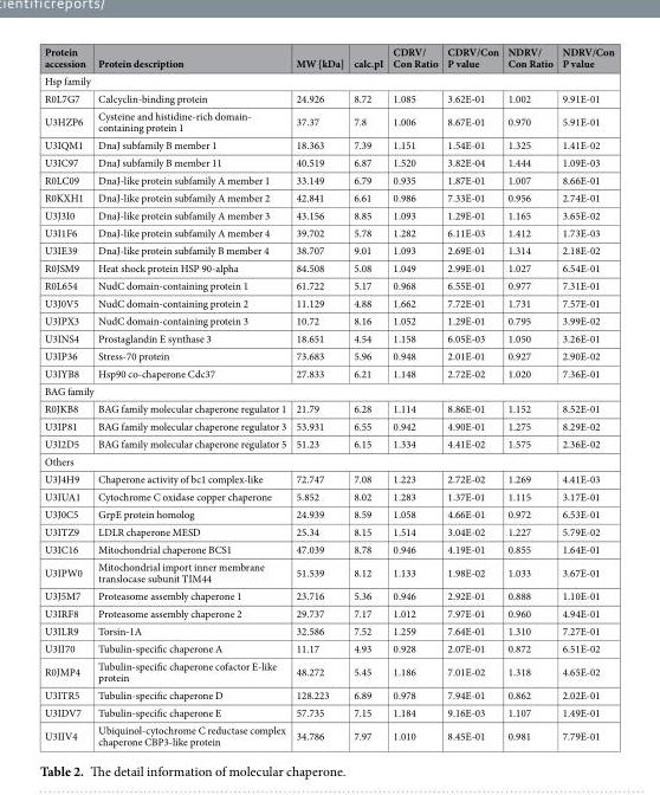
<table><thead><tr><td>Protein accession</td><td>Protein description</td><td>MW [kDa]</td><td>calc.pI</td><td>CDRV/ Con Ratio</td><td>CDRV/Con P value</td><td>NDRV/ Con Ratio</td><td>NDRV/Con P value</td></tr></thead><tbody><tr><td colspan="8">Hsp family</td></tr><tr><td>R0L7G7</td><td>Calcyclin-binding protein</td><td>24.926</td><td>8.72</td><td>1.085</td><td>3.62E-01</td><td>1.002</td><td>9.91E-01</td></tr><tr><td>U3HZP6</td><td>Cysteine and histidine-rich domain- containing protein 1</td><td>37.37</td><td>7.8</td><td>1.006</td><td>8.67E-01</td><td>0.970</td><td>5.91E-01</td></tr><tr><td>U3IQM1</td><td>DnaJ subfamily B member 1</td><td>18.363</td><td>7.39</td><td>1.151</td><td>1.54E-01</td><td>1.325</td><td>1.41E-02</td></tr><tr><td>U3IC97</td><td>DnaJ subfamily B member 11</td><td>40.519</td><td>6.87</td><td>1.520</td><td>3.82E-04</td><td>1.444</td><td>1.09E-03</td></tr><tr><td>R0LC09</td><td>DnaJ-like protein subfamily A member 1</td><td>33.149</td><td>6.79</td><td>0.935</td><td>1.87E-01</td><td>1.007</td><td>8.66E-01</td></tr><tr><td>R0KXH1</td><td>DnaJ-like protein subfamily A member 2</td><td>42.841</td><td>6.61</td><td>0.986</td><td>7.33E-01</td><td>0.956</td><td>2.74E-01</td></tr><tr><td>U3J3I0</td><td>DnaJ-like protein subfamily A member 3</td><td>43.156</td><td>8.85</td><td>1.093</td><td>1.29E-01</td><td>1.165</td><td>3.65E-02</td></tr><tr><td>U3I1F6</td><td>DnaJ-like protein subfamily A member 4</td><td>39.702</td><td>5.78</td><td>1.282</td><td>6.11E-03</td><td>1.412</td><td>1.73E-03</td></tr><tr><td>U3IE39</td><td>DnaJ-like protein subfamily B member 4</td><td>38.707</td><td>9.01</td><td>1.093</td><td>2.69E-01</td><td>1.314</td><td>2.18E-02</td></tr><tr><td>R0JSM9</td><td>Heat shock protein HSP 90-alpha</td><td>84.508</td><td>5.08</td><td>1.049</td><td>2.99E-01</td><td>1.027</td><td>6.54E-01</td></tr><tr><td>R0L654</td><td>NudC domain-containing protein 1</td><td>61.722</td><td>5.17</td><td>0.968</td><td>6.55E-01</td><td>0.977</td><td>7.31E-01</td></tr><tr><td>U3J0V5</td><td>NudC domain-containing protein 2</td><td>11.129</td><td>4.88</td><td>1.662</td><td>7.72E-01</td><td>1.731</td><td>7.57E-01</td></tr><tr><td>U3IPX3</td><td>NudC domain-containing protein 3</td><td>10.72</td><td>8.16</td><td>1.052</td><td>1.29E-01</td><td>0.795</td><td>3.99E-02</td></tr><tr><td>U3INS4</td><td>Prostaglandin E synthase 3</td><td>18.651</td><td>4.54</td><td>1.158</td><td>6.05E-03</td><td>1.050</td><td>3.26E-01</td></tr><tr><td>U3IP36</td><td>Stress-70 protein</td><td>73.683</td><td>5.96</td><td>0.948</td><td>2.01E-01</td><td>0.927</td><td>2.90E-02</td></tr><tr><td>U3IYB8</td><td>Hsp90 co-chaperone Cdc37</td><td>27.833</td><td>6.21</td><td>1.148</td><td>2.72E-02</td><td>1.020</td><td>7.36E-01</td></tr><tr><td colspan="8">BAG family</td></tr><tr><td>R0JKB8</td><td>BAG family molecular chaperone regulator 1</td><td>21.79</td><td>6.28</td><td>1.114</td><td>8.86E-01</td><td>1.152</td><td>8.52E-01</td></tr><tr><td>U3IP81</td><td>BAG family molecular chaperone regulator 3</td><td>53.931</td><td>6.55</td><td>0.942</td><td>4.90E-01</td><td>1.275</td><td>8.29E-02</td></tr><tr><td>U3I2D5</td><td>BAG family molecular chaperone regulator 5</td><td>51.23</td><td>6.15</td><td>1.334</td><td>4.41E-02</td><td>1.575</td><td>2.36E-02</td></tr><tr><td colspan="8">Others</td></tr><tr><td>U3J4H9</td><td>Chaperone activity of bc1 complex-like</td><td>72.747</td><td>7.08</td><td>1.223</td><td>2.72E-02</td><td>1.269</td><td>4.41E-03</td></tr><tr><td>U3IUA1</td><td>Cytochrome C oxidase copper chaperone</td><td>5.852</td><td>8.02</td><td>1.283</td><td>1.37E-01</td><td>1.115</td><td>3.17E-01</td></tr><tr><td>U3J0C5</td><td>GrpE protein homolog</td><td>24.939</td><td>8.59</td><td>1.058</td><td>4.66E-01</td><td>0.972</td><td>6.53E-01</td></tr><tr><td>U3ITZ9</td><td>LDLR chaperone MESD</td><td>25.34</td><td>8.15</td><td>1.514</td><td>3.04E-02</td><td>1.227</td><td>5.79E-02</td></tr><tr><td>U3IC16</td><td>Mitochondrial chaperone BCS1</td><td>47.039</td><td>8.78</td><td>0.946</td><td>4.19E-01</td><td>0.855</td><td>1.64E-01</td></tr><tr><td>U3IPW0</td><td>Mitochondrial import inner membrane translocase subunit TIM44</td><td>51.539</td><td>8.12</td><td>1.133</td><td>1.98E-02</td><td>1.033</td><td>3.67E-01</td></tr><tr><td>U3J5M7</td><td>Proteasome assembly chaperone 1</td><td>23.716</td><td>5.36</td><td>0.946</td><td>2.92E-01</td><td>0.888</td><td>1.10E-01</td></tr><tr><td>U3IRF8</td><td>Proteasome assembly chaperone 2</td><td>29.737</td><td>7.17</td><td>1.012</td><td>7.97E-01</td><td>0.960</td><td>4.94E-01</td></tr><tr><td>U3ILR9</td><td>Torsin-1A</td><td>32.586</td><td>7.52</td><td>1.259</td><td>7.64E-01</td><td>1.310</td><td>7.27E-01</td></tr><tr><td>U3II70</td><td>Tubulin-specific chaperone A</td><td>11.17</td><td>4.93</td><td>0.928</td><td>2.07E-01</td><td>0.872</td><td>6.51E-02</td></tr><tr><td>R0JMP4</td><td>Tubulin-specific chaperone cofactor E-like protein</td><td>48.272</td><td>5.45</td><td>1.186</td><td>7.01E-02</td><td>1.318</td><td>4.65E-02</td></tr><tr><td>U3ITR5</td><td>Tubulin-specific chaperone D</td><td>128.223</td><td>6.89</td><td>0.978</td><td>7.94E-01</td><td>0.862</td><td>2.02E-01</td></tr><tr><td>U3IDV7</td><td>Tubulin-specific chaperone E</td><td>57.735</td><td>7.15</td><td>1.184</td><td>9.16E-03</td><td>1.107</td><td>1.49E-01</td></tr><tr><td>U3IIV4</td><td>Ubiquinol-cytochrome C reductase complex chaperone CBP3-like protein</td><td>34.786</td><td>7.97</td><td>1.010</td><td>8.45E-01</td><td>0.981</td><td>7.79E-01</td></tr></tbody></table>